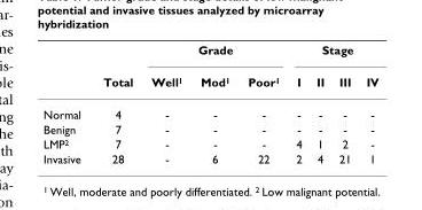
<table><thead><tr><td rowspan="2"></td><td rowspan="2">Total</td><td colspan="3">Grade</td><td colspan="4">Stage</td></tr><tr><td>Well<sup>1</sup></td><td>Mod<sup>1</sup></td><td>Poor<sup>1</sup></td><td>I</td><td>II</td><td>III</td><td>IV</td></tr></thead><tbody><tr><td>Normal</td><td>4</td><td>-</td><td>-</td><td>-</td><td>-</td><td>-</td><td>-</td><td>-</td></tr><tr><td>Benign</td><td>7</td><td>-</td><td>-</td><td>-</td><td>-</td><td>-</td><td>-</td><td>-</td></tr><tr><td>LMP<sup>2</sup></td><td>7</td><td>-</td><td>-</td><td>-</td><td>4</td><td>1</td><td>2</td><td>-</td></tr><tr><td>Invasive</td><td>28</td><td>-</td><td>6</td><td>22</td><td>2</td><td>4</td><td>21</td><td>1</td></tr></tbody></table>